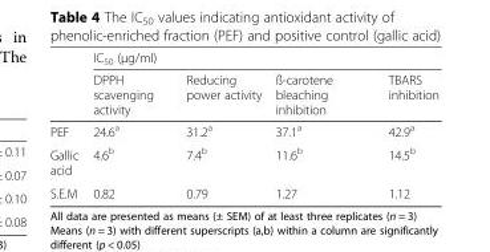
<table><thead><tr><td rowspan="2"></td><td colspan="4">IC<sub>50</sub> (μg/ml)</td></tr><tr><td>DPPH scavenging activity</td><td>Reducing power activity</td><td>ß-carotene bleaching inhibition</td><td>TBARS inhibition</td></tr></thead><tbody><tr><td>PEF</td><td>24.6<sup>a</sup></td><td>31.2<sup>a</sup></td><td>37.1<sup>a</sup></td><td>42.9<sup>a</sup></td></tr><tr><td>Gallic acid</td><td>4.6<sup>b</sup></td><td>7.4<sup>b</sup></td><td>11.6<sup>b</sup></td><td>14.5<sup>b</sup></td></tr><tr><td>S.E.M</td><td>0.82</td><td>0.79</td><td>1.27</td><td>1.12</td></tr></tbody></table>